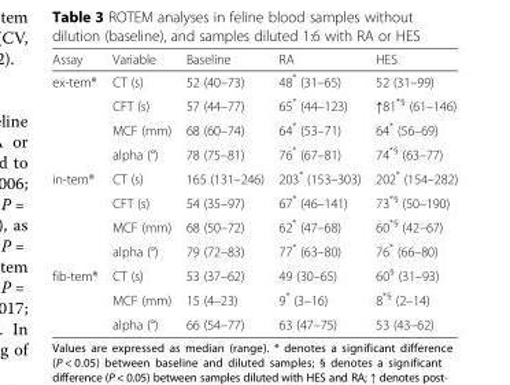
<table><thead><tr><td>Assay</td><td>Variable</td><td>Baseline</td><td>RA</td><td>HES</td></tr></thead><tbody><tr><td rowspan="4">ex-tem®</td><td>CT (s)</td><td>52 (40–73)</td><td>48* (31–65)</td><td>52 (31–99)</td></tr><tr><td>CFT (s)</td><td>57 (44–77)</td><td>65* (44–123)</td><td>↑81<sup>*§</sup> (61–146)</td></tr><tr><td>MCF (mm)</td><td>68 (60–74)</td><td>64* (53–71)</td><td>64* (56–69)</td></tr><tr><td>alpha (°)</td><td>78 (75–81)</td><td>76* (67–81)</td><td>74<sup>*§</sup> (63–77)</td></tr><tr><td rowspan="4">in-tem®</td><td>CT (s)</td><td>165 (131–246)</td><td>203* (153–303)</td><td>202* (154–282)</td></tr><tr><td>CFT (s)</td><td>54 (35–97)</td><td>67* (46–141)</td><td>73<sup>*§</sup> (50–190)</td></tr><tr><td>MCF (mm)</td><td>68 (50–72)</td><td>62* (47–68)</td><td>60<sup>*§</sup> (42–67)</td></tr><tr><td>alpha (°)</td><td>79 (72–83)</td><td>77* (63–80)</td><td>76* (66–80)</td></tr><tr><td rowspan="3">fib-tem®</td><td>CT (s)</td><td>53 (37–62)</td><td>49 (30–65)</td><td>60<sup>§</sup> (31–93)</td></tr><tr><td>MCF (mm)</td><td>15 (4–23)</td><td>9* (3–16)</td><td>8<sup>*§</sup> (2–14)</td></tr><tr><td>alpha (°)</td><td>66 (54–77)</td><td>63 (47–75)</td><td>53 (43–62)</td></tr></tbody></table>